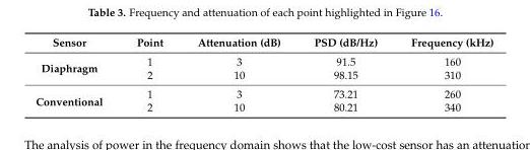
<table><thead><tr><td>Sensor</td><td>Point</td><td>Attenuation (dB)</td><td>PSD (dB/Hz)</td><td>Frequency (kHz)</td></tr></thead><tbody><tr><td rowspan="2">Diaphragm</td><td>1</td><td>3</td><td>91.5</td><td>160</td></tr><tr><td>2</td><td>10</td><td>98.15</td><td>310</td></tr><tr><td rowspan="2">Conventional</td><td>1</td><td>3</td><td>73.21</td><td>260</td></tr><tr><td>2</td><td>10</td><td>80.21</td><td>340</td></tr></tbody></table>